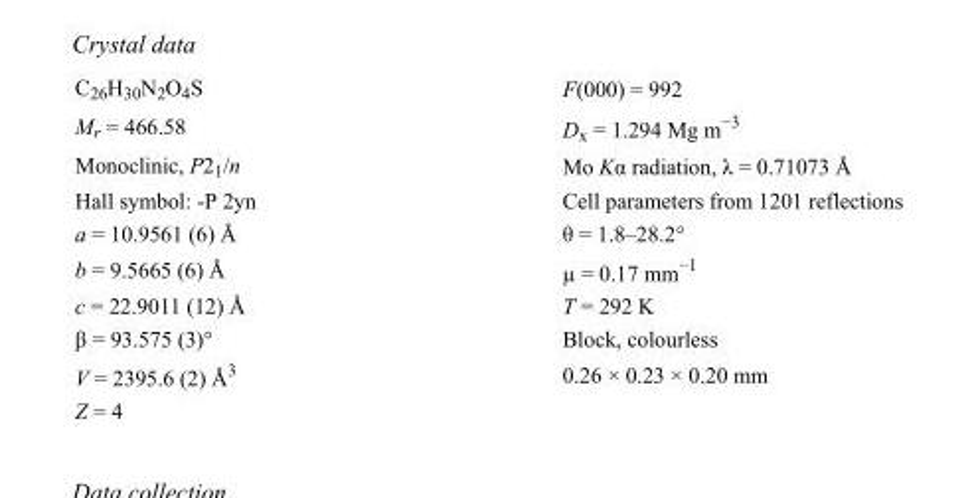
<table><tbody><tr><td>C<sub>26</sub>H<sub>30</sub>N<sub>2</sub>O<sub>4</sub>S</td><td>F(000) = 992</td></tr><tr><td>M<sub>r</sub> = 466.58</td><td>D<sub>x</sub> = 1.294 Mg m<sup>−3</sup></td></tr><tr><td>Monoclinic, P2<sub>1</sub>/n</td><td>Mo Kα radiation, λ = 0.71073 Å</td></tr><tr><td>Hall symbol: -P 2yn</td><td>Cell parameters from 1201 reflections</td></tr><tr><td>a = 10.9561 (6) Å</td><td>θ = 1.8–28.2°</td></tr><tr><td>b = 9.5665 (6) Å</td><td>µ = 0.17 mm<sup>−1</sup></td></tr><tr><td>c = 22.9011 (12) Å</td><td>T = 292 K</td></tr><tr><td>β = 93.575 (3)°</td><td>Block, colourless</td></tr><tr><td>V = 2395.6 (2) Å<sup>3</sup></td><td>0.26 × 0.23 × 0.20 mm</td></tr><tr><td>Z = 4</td><td></td></tr></tbody></table>